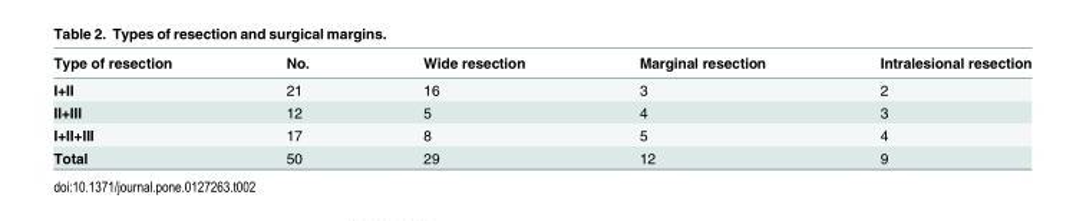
<table><thead><tr><td>Type of resection</td><td>No.</td><td>Wide resection</td><td>Marginal resection</td><td>Intralesional resection</td></tr></thead><tbody><tr><td>I+II</td><td>21</td><td>16</td><td>3</td><td>2</td></tr><tr><td>II+III</td><td>12</td><td>5</td><td>4</td><td>3</td></tr><tr><td>I+II+III</td><td>17</td><td>8</td><td>5</td><td>4</td></tr><tr><td>Total</td><td>50</td><td>29</td><td>12</td><td>9</td></tr></tbody></table>